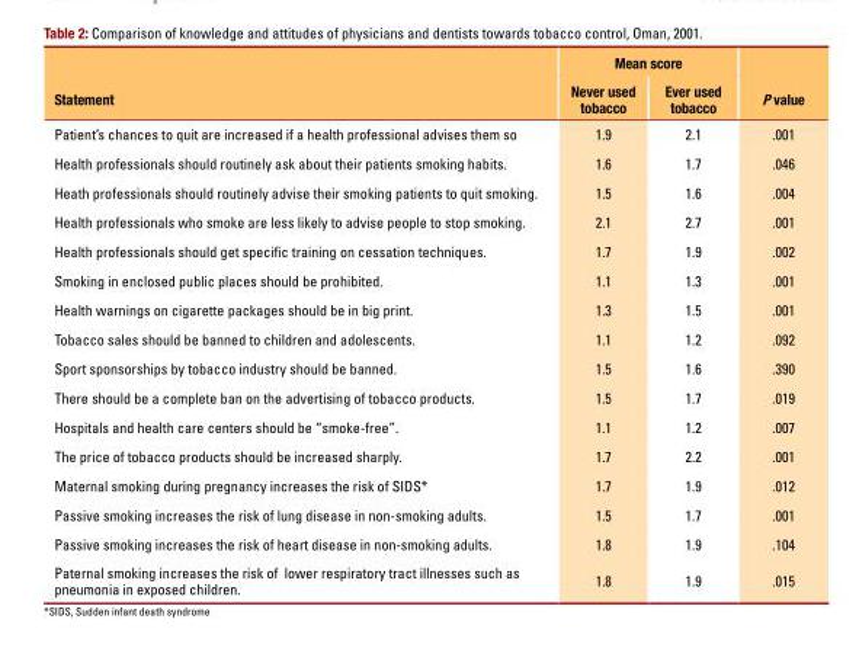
<table><thead><tr><td rowspan="2">Statement</td><td colspan="2">Mean score</td><td rowspan="2">P value</td></tr><tr><td>Never used tobacco</td><td>Ever used tobacco</td></tr></thead><tbody><tr><td>Patient’s chances to quit are increased if a health professional advises them so</td><td>1.9</td><td>2.1</td><td>.001</td></tr><tr><td>Health professionals should routinely ask about their patients smoking habits.</td><td>1.6</td><td>1.7</td><td>.046</td></tr><tr><td>Heath professionals should routinely advise their smoking patients to quit smoking.</td><td>1.5</td><td>1.6</td><td>.004</td></tr><tr><td>Health professionals who smoke are less likely to advise people to stop smoking.</td><td>2.1</td><td>2.7</td><td>.001</td></tr><tr><td>Health professionals should get specific training on cessation techniques.</td><td>1.7</td><td>1.9</td><td>.002</td></tr><tr><td>Smoking in enclosed public places should be prohibited.</td><td>1.1</td><td>1.3</td><td>.001</td></tr><tr><td>Health warnings on cigarette packages should be in big print.</td><td>1.3</td><td>1.5</td><td>.001</td></tr><tr><td>tobacco sales should be banned to children and adolescents.</td><td>1.1</td><td>1.2</td><td>.092</td></tr><tr><td>Sport sponsorships by tobacco industry should be banned.</td><td>1.5</td><td>1.6</td><td>.390</td></tr><tr><td>there should be a complete ban on the advertising of tobacco products.</td><td>1.5</td><td>1.7</td><td>.019</td></tr><tr><td>Hospitals and health care centers should be “smoke-free”.</td><td>1.1</td><td>1.2</td><td>.007</td></tr><tr><td>the price of tobacco products should be increased sharply.</td><td>1.7</td><td>2.2</td><td>.001</td></tr><tr><td>Maternal smoking during pregnancy increases the risk of SiDS*</td><td>1.7</td><td>1.9</td><td>.012</td></tr><tr><td>Passive smoking increases the risk of lung disease in non-smoking adults.</td><td>1.5</td><td>1.7</td><td>.001</td></tr><tr><td>Passive smoking increases the risk of heart disease in non-smoking adults.</td><td>1.8</td><td>1.9</td><td>.104</td></tr><tr><td>Paternal smoking increases the risk of lower respiratory tract illnesses such as pneumonia in exposed children.</td><td>1.8</td><td>1.9</td><td>.015</td></tr></tbody></table>